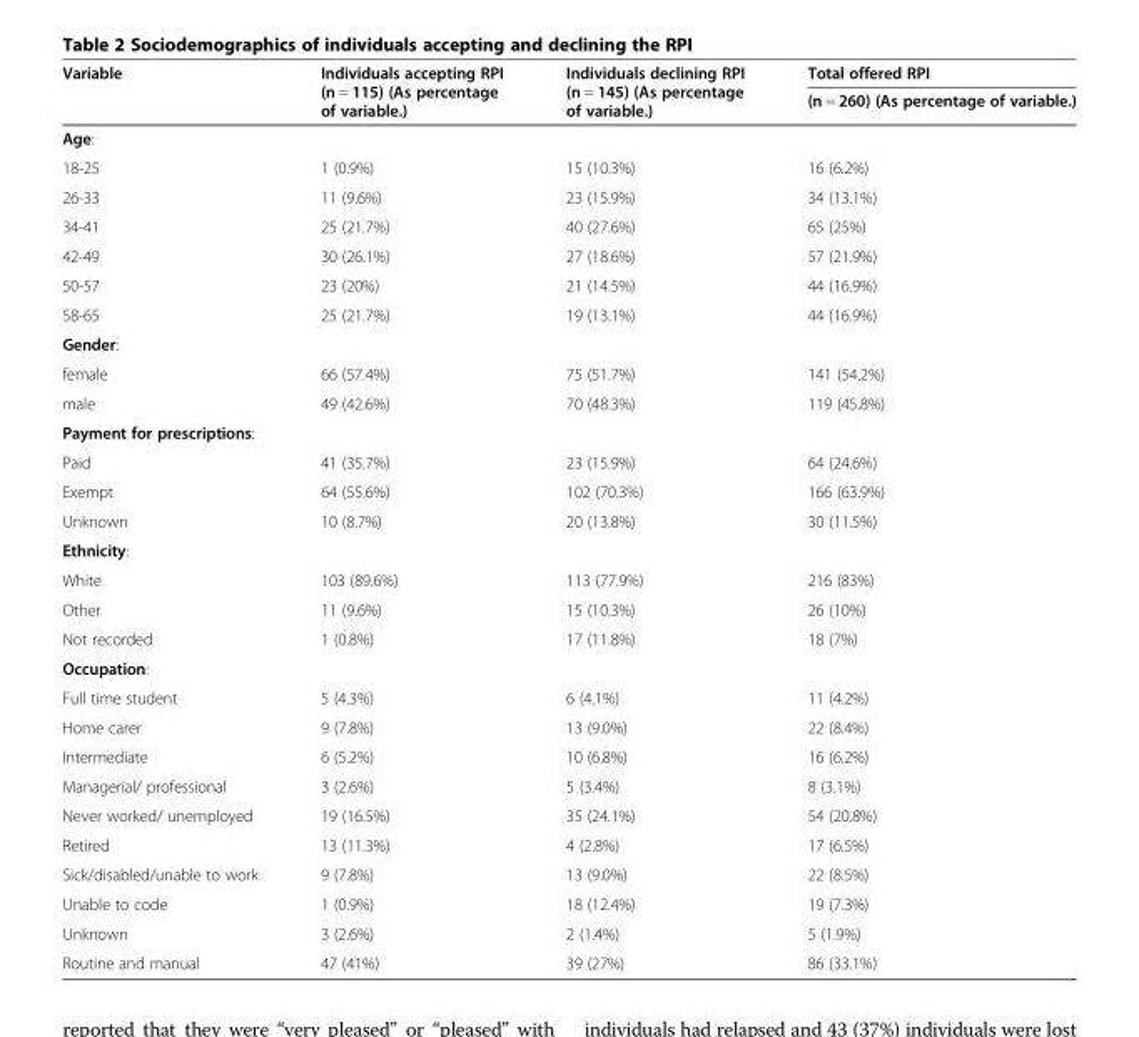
<table><thead><tr><td rowspan="2">Variable</td><td rowspan="2">Individuals accepting RPI (n = 115) (As percentage of variable.)</td><td rowspan="2">Individuals declining RPI (n = 145) (As percentage of variable.)</td><td rowspan="2">Total offered RPI (n = 260) (As percentage of variable.)</td></tr><tr></tr></thead><tbody><tr><td colspan="4">Age:</td></tr><tr><td>18-25</td><td>1 (0.9%)</td><td>15 (10.3%)</td><td>16 (6.2%)</td></tr><tr><td>26-33</td><td>11 (9.6%)</td><td>23 (15.9%)</td><td>34 (13.1%)</td></tr><tr><td>34-41</td><td>25 (21.7%)</td><td>40 (27.6%)</td><td>65 (25%)</td></tr><tr><td>42-49</td><td>30 (26.1%)</td><td>27 (18.6%)</td><td>57 (21.9%)</td></tr><tr><td>50-57</td><td>23 (20%)</td><td>21 (14.5%)</td><td>44 (16.9%)</td></tr><tr><td>58-65</td><td>25 (21.7%)</td><td>19 (13.1%)</td><td>44 (16.9%)</td></tr><tr><td colspan="4">Gender:</td></tr><tr><td>female</td><td>66 (57.4%)</td><td>75 (51.7%)</td><td>141 (54.2%)</td></tr><tr><td>male</td><td>49 (42.6%)</td><td>70 (48.3%)</td><td>119 (45.8%)</td></tr><tr><td colspan="4">Payment for prescriptions:</td></tr><tr><td>Paid</td><td>41 (35.7%)</td><td>23 (15.9%)</td><td>64 (24.6%)</td></tr><tr><td>Exempt</td><td>64 (55.6%)</td><td>102 (70.3%)</td><td>166 (63.9%)</td></tr><tr><td>Unknown</td><td>10 (8.7%)</td><td>20 (13.8%)</td><td>30 (11.5%)</td></tr><tr><td colspan="4">Ethnicity:</td></tr><tr><td>White</td><td>103 (89.6%)</td><td>113 (77.9%)</td><td>216 (83%)</td></tr><tr><td>Other</td><td>11 (9.6%)</td><td>15 (10.3%)</td><td>26 (10%)</td></tr><tr><td>Not recorded</td><td>1 (0.8%)</td><td>17 (11.8%)</td><td>18 (7%)</td></tr><tr><td colspan="4">Occupation:</td></tr><tr><td>Full time student</td><td>5 (4.3%)</td><td>6 (4.1%)</td><td>11 (4.2%)</td></tr><tr><td>Home carer</td><td>9 (7.8%)</td><td>13 (9.0%)</td><td>22 (8.4%)</td></tr><tr><td>Intermediate</td><td>6 (5.2%)</td><td>10 (6.8%)</td><td>16 (6.2%)</td></tr><tr><td>Managerial/ professional</td><td>3 (2.6%)</td><td>5 (3.4%)</td><td>8 (3.1%)</td></tr><tr><td>Never worked/ unemployed</td><td>19 (16.5%)</td><td>35 (24.1%)</td><td>54 (20.8%)</td></tr><tr><td>Retired</td><td>13 (11.3%)</td><td>4 (2.8%)</td><td>17 (6.5%)</td></tr><tr><td>Sick/disabled/unable to work</td><td>9 (7.8%)</td><td>13 (9.0%)</td><td>22 (8.5%)</td></tr><tr><td>Unable to code</td><td>1 (0.9%)</td><td>18 (12.4%)</td><td>19 (7.3%)</td></tr><tr><td>Unknown</td><td>3 (2.6%)</td><td>2 (1.4%)</td><td>5 (1.9%)</td></tr><tr><td>Routine and manual</td><td>47 (41%)</td><td>39 (27%)</td><td>86 (33.1%)</td></tr></tbody></table>